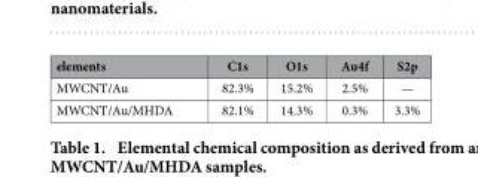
<table><thead><tr><td>elements</td><td>C1s</td><td>O1s</td><td>Au4f</td><td>S2p</td></tr></thead><tbody><tr><td>MWCNT/Au</td><td>82.3%</td><td>15.2%</td><td>2.5%</td><td>—</td></tr><tr><td>MWCNT/Au/MHDA</td><td>82.1%</td><td>14.3%</td><td>0.3%</td><td>3.3%</td></tr></tbody></table>